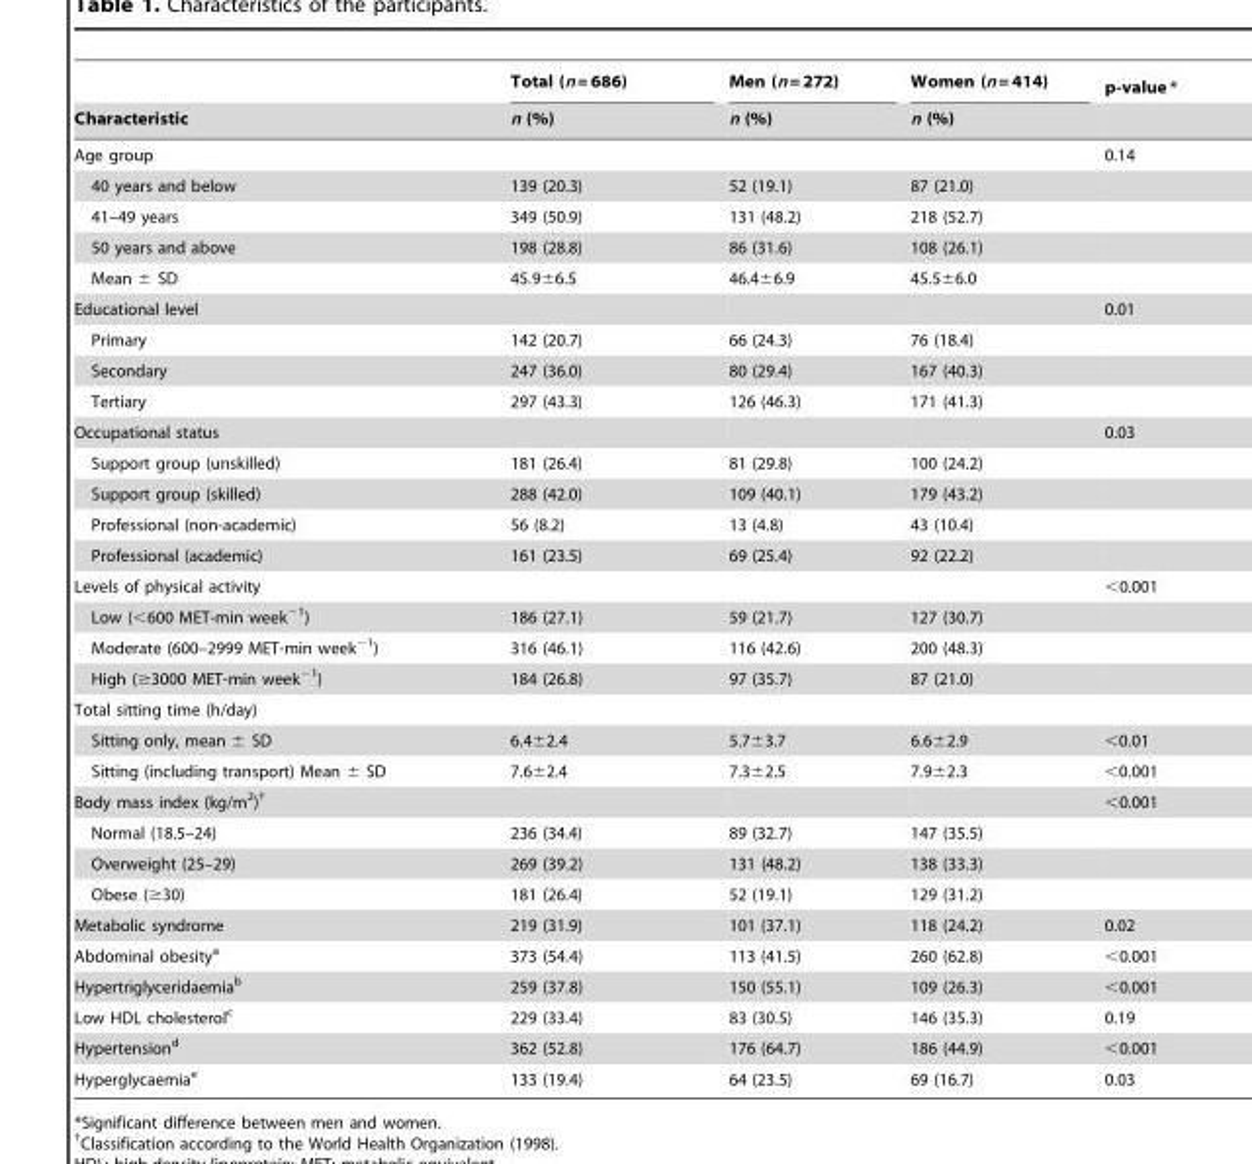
<table><thead><tr><td rowspan="2">Characteristic</td><td rowspan="2">Total (n = 686) n (%)</td><td rowspan="2">Men (n = 272) n (%)</td><td rowspan="2">Women (n = 414) n (%)</td><td rowspan="2">p-value*</td></tr><tr></tr></thead><tbody><tr><td>Age group</td><td></td><td></td><td></td><td>0.14</td></tr><tr><td>40 years and below</td><td>139 (20.3)</td><td>52 (19.1)</td><td>87 (21.0)</td><td></td></tr><tr><td>41–49 years</td><td>349 (50.9)</td><td>131 (48.2)</td><td>218 (52.7)</td><td></td></tr><tr><td>50 years and above</td><td>198 (28.8)</td><td>86 (31.6)</td><td>108 (26.1)</td><td></td></tr><tr><td>Mean ± SD</td><td>45.9±6.5</td><td>46.4±6.9</td><td>45.5±6.0</td><td></td></tr><tr><td>Educational level</td><td></td><td></td><td></td><td>0.01</td></tr><tr><td>Primary</td><td>142 (20.7)</td><td>66 (24.3)</td><td>76 (18.4)</td><td></td></tr><tr><td>Secondary</td><td>247 (36.0)</td><td>80 (29.4)</td><td>167 (40.3)</td><td></td></tr><tr><td>Tertiary</td><td>297 (43.3)</td><td>126 (46.3)</td><td>171 (41.3)</td><td></td></tr><tr><td>Occupational status</td><td></td><td></td><td></td><td>0.03</td></tr><tr><td>Support group (unskilled)</td><td>181 (26.4)</td><td>81 (29.8)</td><td>100 (24.2)</td><td></td></tr><tr><td>Support group (skilled)</td><td>288 (42.0)</td><td>109 (40.1)</td><td>179 (43.2)</td><td></td></tr><tr><td>Professional (non-academic)</td><td>56 (8.2)</td><td>13 (4.8)</td><td>43 (10.4)</td><td></td></tr><tr><td>Professional (academic)</td><td>161 (23.5)</td><td>69 (25.4)</td><td>92 (22.2)</td><td></td></tr><tr><td>Levels of physical activity</td><td></td><td></td><td></td><td>&lt;0.001</td></tr><tr><td>Low (&lt;600 MET-min week<sup>−1</sup>)</td><td>186 (27.1)</td><td>59 (21.7)</td><td>127 (30.7)</td><td></td></tr><tr><td>Moderate (600–2999 MET-min week<sup>−1</sup>)</td><td>316 (46.1)</td><td>116 (42.6)</td><td>200 (48.3)</td><td></td></tr><tr><td>High (≥3000 MET-min week<sup>−1</sup>)</td><td>184 (26.8)</td><td>97 (35.7)</td><td>87 (21.0)</td><td></td></tr><tr><td colspan="5">Total sitting time (h/day)</td></tr><tr><td>Sitting only, mean ± SD</td><td>6.4±2.4</td><td>5.7±3.7</td><td>6.6±2.9</td><td>&lt;0.01</td></tr><tr><td>Sitting (including transport) Mean ± SD</td><td>7.6±2.4</td><td>7.3±2.5</td><td>7.9±2.3</td><td>&lt;0.001</td></tr><tr><td>Body mass index (kg/m<sup>2</sup>)†</td><td></td><td></td><td></td><td>&lt;0.001</td></tr><tr><td>Normal (18.5–24)</td><td>236 (34.4)</td><td>89 (32.7)</td><td>147 (35.5)</td><td></td></tr><tr><td>Overweight (25–29)</td><td>269 (39.2)</td><td>131 (48.2)</td><td>138 (33.3)</td><td></td></tr><tr><td>Obese (≥30)</td><td>181 (26.4)</td><td>52 (19.1)</td><td>129 (31.2)</td><td></td></tr><tr><td>Metabolic syndrome</td><td>219 (31.9)</td><td>101 (37.1)</td><td>118 (24.2)</td><td>0.02</td></tr><tr><td>Abdominal obesity<sup>a</sup></td><td>373 (54.4)</td><td>113 (41.5)</td><td>260 (62.8)</td><td>&lt;0.001</td></tr><tr><td>Hypertriglyceridaemia<sup>b</sup></td><td>259 (37.8)</td><td>150 (55.1)</td><td>109 (26.3)</td><td>&lt;0.001</td></tr><tr><td>Low HDL cholesterol<sup>c</sup></td><td>229 (33.4)</td><td>83 (30.5)</td><td>146 (35.3)</td><td>0.19</td></tr><tr><td>Hypertension<sup>d</sup></td><td>362 (52.8)</td><td>176 (64.7)</td><td>186 (44.9)</td><td>&lt;0.001</td></tr><tr><td>Hyperglycaemia<sup>e</sup></td><td>133 (19.4)</td><td>64 (23.5)</td><td>69 (16.7)</td><td>0.03</td></tr></tbody></table>